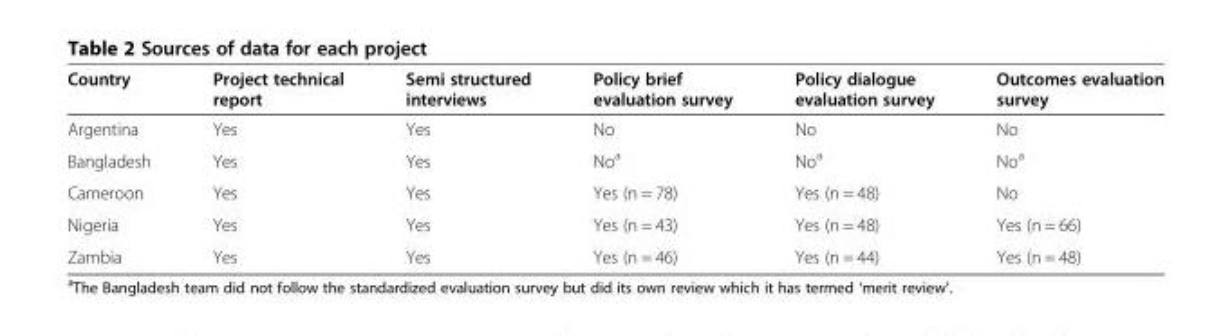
<table><thead><tr><td>Country</td><td>Project technical report</td><td>Semi structured interviews</td><td>Policy brief evaluation survey</td><td>Policy dialogue evaluation survey</td><td>Outcomes evaluation survey</td></tr></thead><tbody><tr><td>Argentina</td><td>Yes</td><td>Yes</td><td>No</td><td>No</td><td>No</td></tr><tr><td>Bangladesh</td><td>Yes</td><td>Yes</td><td>No<sup>a</sup></td><td>No<sup>a</sup></td><td>No<sup>a</sup></td></tr><tr><td>Cameroon</td><td>Yes</td><td>Yes</td><td>Yes (n = 78)</td><td>Yes (n = 48)</td><td>No</td></tr><tr><td>Nigeria</td><td>Yes</td><td>Yes</td><td>Yes (n = 43)</td><td>Yes (n = 48)</td><td>Yes (n = 66)</td></tr><tr><td>Zambia</td><td>Yes</td><td>Yes</td><td>Yes (n = 46)</td><td>Yes (n = 44)</td><td>Yes (n = 48)</td></tr></tbody></table>